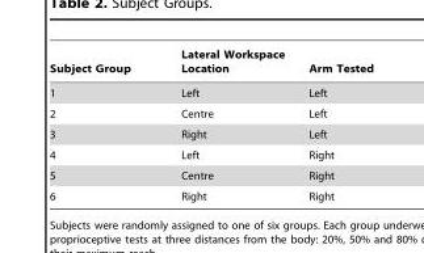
<table><thead><tr><td>Subject Group</td><td>Lateral Workspace Location</td><td>Arm Tested</td></tr></thead><tbody><tr><td>1</td><td>Left</td><td>Left</td></tr><tr><td>2</td><td>Centre</td><td>Left</td></tr><tr><td>3</td><td>Right</td><td>Left</td></tr><tr><td>4</td><td>Left</td><td>Right</td></tr><tr><td>5</td><td>Centre</td><td>Right</td></tr><tr><td>6</td><td>Right</td><td>Right</td></tr></tbody></table>